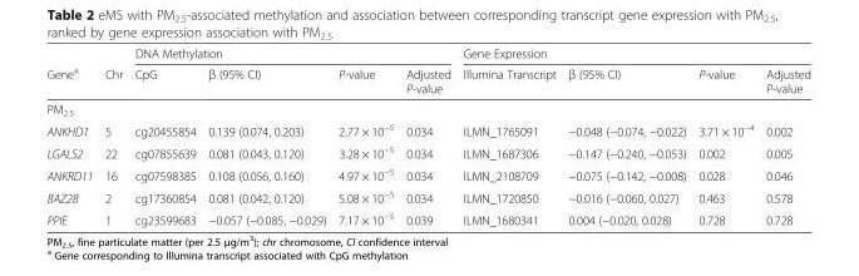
<table><thead><tr><td rowspan="2">Gene<sup>a</sup></td><td rowspan="2">Chr</td><td colspan="4">DNA Methylation</td><td colspan="4">Gene Expression</td></tr><tr><td>CpG</td><td>β (95% CI)</td><td>P-value</td><td>Adjusted P-value</td><td>Illumina Transcript</td><td>β (95% CI)</td><td>P-value</td><td>Adjusted P-value</td></tr></thead><tbody><tr><td colspan="10">PM<sub>2.5</sub></td></tr><tr><td>ANKHD1</td><td>5</td><td>cg20455854</td><td>0.139 (0.074, 0.203)</td><td>2.77 × 10<sup>−5</sup></td><td>0.034</td><td>ILMN_1765091</td><td>−0.048 (−0.074, −0.022)</td><td>3.71 × 10<sup>−4</sup></td><td>0.002</td></tr><tr><td>LGALS2</td><td>22</td><td>cg07855639</td><td>0.081 (0.043, 0.120)</td><td>3.28 × 10<sup>−5</sup></td><td>0.034</td><td>ILMN_1687306</td><td>−0.147 (−0.240, −0.053)</td><td>0.002</td><td>0.005</td></tr><tr><td>ANKRD11</td><td>16</td><td>cg07598385</td><td>0.108 (0.056, 0.160)</td><td>4.97 × 10<sup>−5</sup></td><td>0.034</td><td>ILMN_2108709</td><td>−0.075 (−0.142, −0.008)</td><td>0.028</td><td>0.046</td></tr><tr><td>BAZ2B</td><td>2</td><td>cg17360854</td><td>0.081 (0.042, 0.120)</td><td>5.08 × 10<sup>−5</sup></td><td>0.034</td><td>ILMN_1720850</td><td>−0.016 (−0.060, 0.027)</td><td>0.463</td><td>0.578</td></tr><tr><td>PPIE</td><td>1</td><td>cg23599683</td><td>−0.057 (−0.085, −0.029)</td><td>7.17 × 10<sup>−5</sup></td><td>0.039</td><td>ILMN_1680341</td><td>0.004 (−0.020, 0.028)</td><td>0.728</td><td>0.728</td></tr></tbody></table>